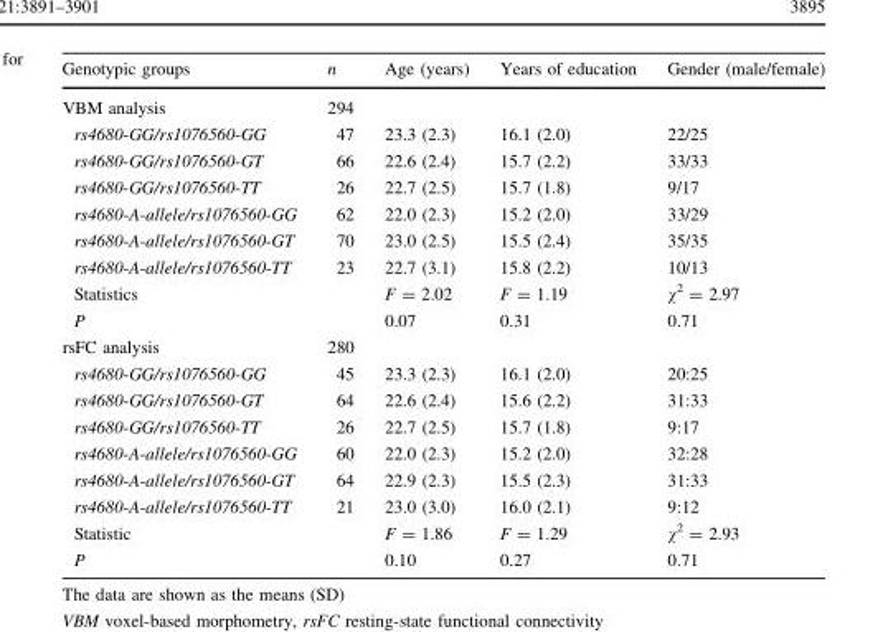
<table><thead><tr><td>Genotypic groups</td><td>n</td><td>Age (years)</td><td>Years of education</td><td>Gender (male/female)</td></tr></thead><tbody><tr><td>VBM analysis</td><td>294</td><td></td><td></td><td></td></tr><tr><td>rs4680-GG/rs1076560-GG</td><td>47</td><td>23.3 (2.3)</td><td>16.1 (2.0)</td><td>22/25</td></tr><tr><td>rs4680-GG/rs1076560-GT</td><td>66</td><td>22.6 (2.4)</td><td>15.7 (2.2)</td><td>33/33</td></tr><tr><td>rs4680-GG/rs1076560-TT</td><td>26</td><td>22.7 (2.5)</td><td>15.7 (1.8)</td><td>9/17</td></tr><tr><td>rs4680-A-allele/rs1076560-GG</td><td>62</td><td>22.0 (2.3)</td><td>15.2 (2.0)</td><td>33/29</td></tr><tr><td>rs4680-A-allele/rs1076560-GT</td><td>70</td><td>23.0 (2.5)</td><td>15.5 (2.4)</td><td>35/35</td></tr><tr><td>rs4680-A-allele/rs1076560-TT</td><td>23</td><td>22.7 (3.1)</td><td>15.8 (2.2)</td><td>10/13</td></tr><tr><td>Statistics</td><td></td><td>F = 2.02</td><td>F = 1.19</td><td>χ<sup>2</sup> = 2.97</td></tr><tr><td>P</td><td></td><td>0.07</td><td>0.31</td><td>0.71</td></tr><tr><td>rsFC analysis</td><td>280</td><td></td><td></td><td></td></tr><tr><td>rs4680-GG/rs1076560-GG</td><td>45</td><td>23.3 (2.3)</td><td>16.1 (2.0)</td><td>20:25</td></tr><tr><td>rs4680-GG/rs1076560-GT</td><td>64</td><td>22.6 (2.4)</td><td>15.6 (2.2)</td><td>31:33</td></tr><tr><td>rs4680-GG/rs1076560-TT</td><td>26</td><td>22.7 (2.5)</td><td>15.7 (1.8)</td><td>9:17</td></tr><tr><td>rs4680-A-allele/rs1076560-GG</td><td>60</td><td>22.0 (2.3)</td><td>15.2 (2.0)</td><td>32:28</td></tr><tr><td>rs4680-A-allele/rs1076560-GT</td><td>64</td><td>22.9 (2.3)</td><td>15.5 (2.3)</td><td>31:33</td></tr><tr><td>rs4680-A-allele/rs1076560-TT</td><td>21</td><td>23.0 (3.0)</td><td>16.0 (2.1)</td><td>9:12</td></tr><tr><td>Statistic</td><td></td><td>F = 1.86</td><td>F = 1.29</td><td>χ<sup>2</sup> = 2.93</td></tr><tr><td>P</td><td></td><td>0.10</td><td>0.27</td><td>0.71</td></tr></tbody></table>